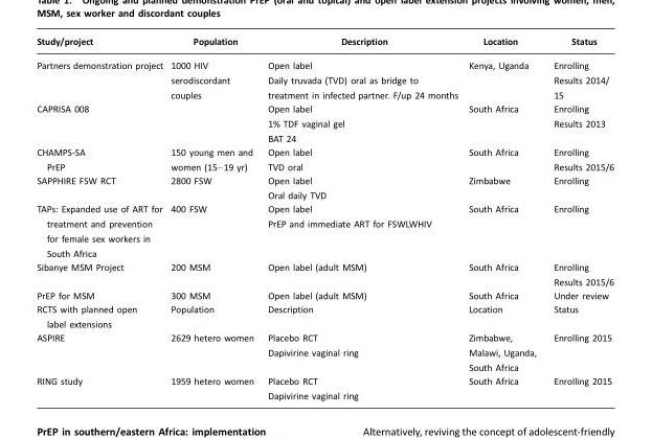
<table><thead><tr><td>Study/project</td><td>Population</td><td>Description</td><td>Location</td><td>Status</td></tr></thead><tbody><tr><td>Partners demonstration project</td><td>1000 HIV serodiscordant couples</td><td>Open label Daily truvada (TVD) oral as bridge to treatment in infected partner. F/up 24 months</td><td>Kenya, Uganda</td><td>Enrolling Results 2014/ 15</td></tr><tr><td>CAPRISA 008</td><td></td><td>Open label 1% TDF vaginal gel BAT 24</td><td>South Africa</td><td>Enrolling Results 2013</td></tr><tr><td>CHAMPS-SA PrEP</td><td>150 young men and women (15–19 yr)</td><td>Open label TVD oral</td><td>South Africa</td><td>Enrolling Results 2015/6</td></tr><tr><td>SAPPHIRE FSW RCT</td><td>2800 FSW</td><td>Open label Oral daily TVD</td><td>Zimbabwe</td><td>Enrolling</td></tr><tr><td>TAPs: Expanded use of ART for treatment and prevention for female sex workers in South Africa</td><td>400 FSW</td><td>Open label PrEP and immediate ART for FSWLWHIV</td><td>South Africa</td><td>Enrolling</td></tr><tr><td>Sibanye MSM Project</td><td>200 MSM</td><td>Open label (adult MSM)</td><td>South Africa</td><td>Enrolling Results 2015/6</td></tr><tr><td>PrEP for MSM</td><td>300 MSM</td><td>Open label (adult MSM)</td><td>South Africa</td><td>Under review</td></tr><tr><td>RCTS with planned open label extensions</td><td>Population</td><td>Description</td><td>Location</td><td>Status</td></tr><tr><td>ASPIRE</td><td>2629 hetero women</td><td>Placebo RCT Dapivirine vaginal ring</td><td>Zimbabwe, Malawi, Uganda, South Africa</td><td>Enrolling 2015</td></tr><tr><td>RING study</td><td>1959 hetero women</td><td>Placebo RCT Dapivirine vaginal ring</td><td>South Africa</td><td>Enrolling 2015</td></tr></tbody></table>